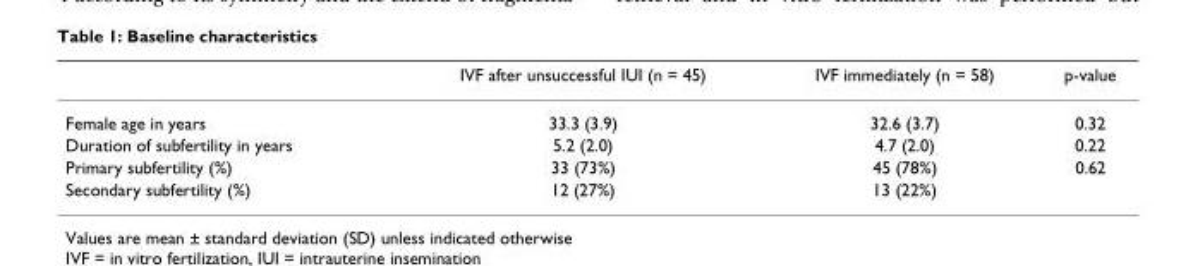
<table><thead><tr><td></td><td>IVF after unsuccessful IUI (n = 45)</td><td>IVF immediately (n = 58)</td><td>p-value</td></tr></thead><tbody><tr><td>Female age in years</td><td>33.3 (3.9)</td><td>32.6 (3.7)</td><td>0.32</td></tr><tr><td>Duration of subfertility in years</td><td>5.2 (2.0)</td><td>4.7 (2.0)</td><td>0.22</td></tr><tr><td>Primary subfertility (%)</td><td>33 (73%)</td><td>45 (78%)</td><td>0.62</td></tr><tr><td>Secondary subfertility (%)</td><td>12 (27%)</td><td>13 (22%)</td><td></td></tr></tbody></table>